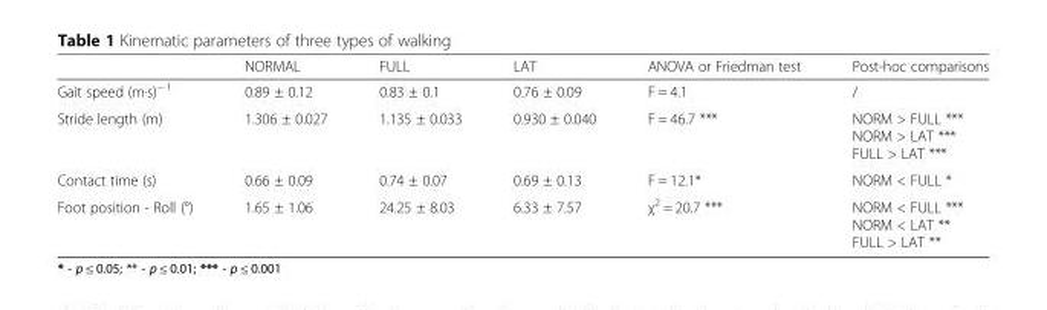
<table><thead><tr><td></td><td>NORMAL</td><td>FULL</td><td>LAT</td><td>ANOVA or Friedman test</td><td>Post-hoc comparisons</td></tr></thead><tbody><tr><td>Gait speed (m·s)<sup>− 1</sup></td><td>0.89 ± 0.12</td><td>0.83 ± 0.1</td><td>0.76 ± 0.09</td><td>F = 4.1</td><td>/</td></tr><tr><td>Stride length (m)</td><td>1.306 ± 0.027</td><td>1.135 ± 0.033</td><td>0.930 ± 0.040</td><td>F = 46.7 ***</td><td>NORM &gt; FULL *** NORM &gt; LAT *** FULL &gt; LAT ***</td></tr><tr><td>Contact time (s)</td><td>0.66 ± 0.09</td><td>0.74 ± 0.07</td><td>0.69 ± 0.13</td><td>F = 12.1*</td><td>NORM &lt; FULL *</td></tr><tr><td>Foot position - Roll (°)</td><td>1.65 ± 1.06</td><td>24.25 ± 8.03</td><td>6.33 ± 7.57</td><td>χ<sup>2</sup> = 20.7 ***</td><td>NORM &lt; FULL *** NORM &lt; LAT ** FULL &gt; LAT **</td></tr></tbody></table>